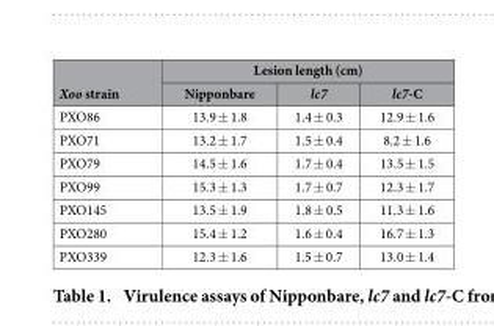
<table><thead><tr><td rowspan="2">Xoo strain</td><td colspan="3">Lesion length (cm)</td></tr><tr><td>Nipponbare</td><td>lc7</td><td>lc7-C</td></tr></thead><tbody><tr><td>PXO86</td><td>13.9 ± 1.8</td><td>1.4 ± 0.3</td><td>12.9 ± 1.6</td></tr><tr><td>PXO71</td><td>13.2 ± 1.7</td><td>1.5 ± 0.4</td><td>8.2 ± 1.6</td></tr><tr><td>PXO79</td><td>14.5 ± 1.6</td><td>1.7 ± 0.4</td><td>13.5 ± 1.5</td></tr><tr><td>PXO99</td><td>15.3 ± 1.3</td><td>1.7 ± 0.7</td><td>12.3 ± 1.7</td></tr><tr><td>PXO145</td><td>13.5 ± 1.9</td><td>1.8 ± 0.5</td><td>11.3 ± 1.6</td></tr><tr><td>PXO280</td><td>15.4 ± 1.2</td><td>1.6 ± 0.4</td><td>16.7 ± 1.3</td></tr><tr><td>PXO339</td><td>12.3 ± 1.6</td><td>1.5 ± 0.7</td><td>13.0 ± 1.4</td></tr></tbody></table>